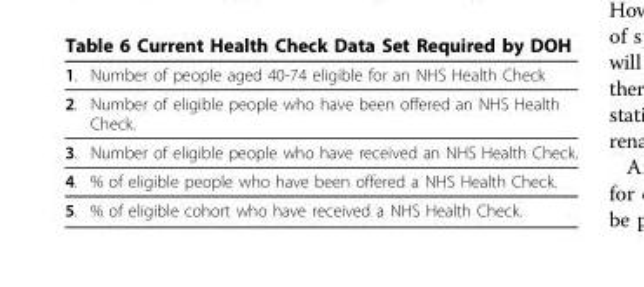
<table><thead><tr><td>1.</td><td>Number of people aged 40-74 eligible for an NHS Health Check</td></tr></thead><tbody><tr><td>2.</td><td>Number of eligible people who have been offered an NHS Health Check.</td></tr><tr><td>3.</td><td>Number of eligible people who have received an NHS Health Check.</td></tr><tr><td>4.</td><td>% of eligible people who have been offered a NHS Health Check.</td></tr><tr><td>5.</td><td>% of eligible cohort who have received a NHS Health Check.</td></tr></tbody></table>